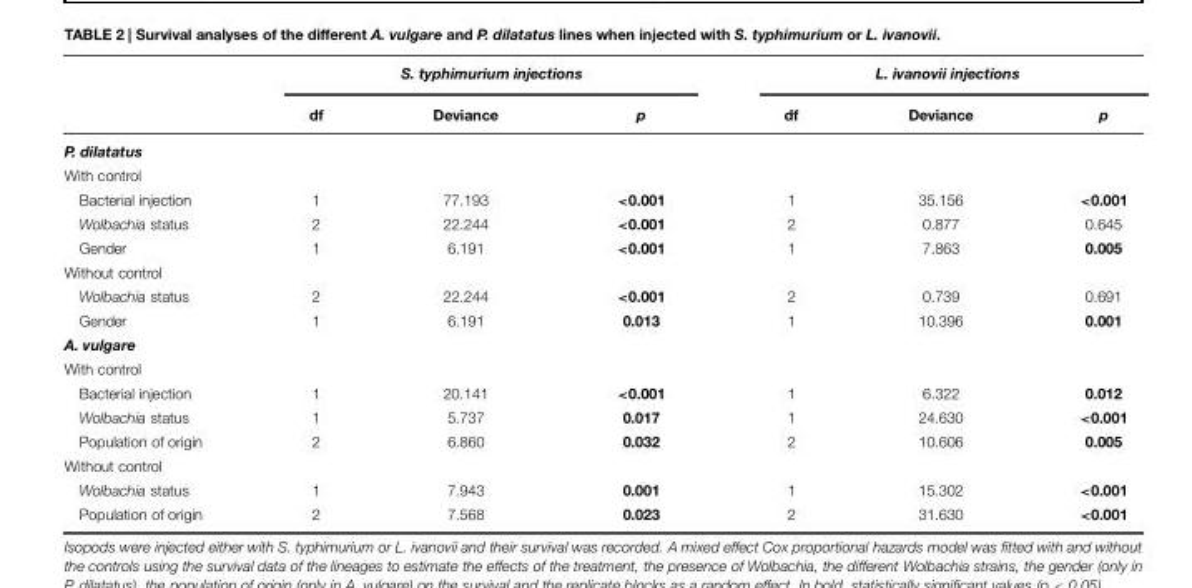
<table><thead><tr><td rowspan="2"></td><td colspan="3">S. typhimurium injections</td><td colspan="3">L. ivanovii injections</td></tr><tr><td>df</td><td>Deviance</td><td>p</td><td>df</td><td>Deviance</td><td>p</td></tr></thead><tbody><tr><td colspan="7">P. dilatatus</td></tr><tr><td colspan="7">With control</td></tr><tr><td>Bacterial injection</td><td>1</td><td>77.193</td><td>&lt;0.001</td><td>1</td><td>35.156</td><td>&lt;0.001</td></tr><tr><td>Wolbachia status</td><td>2</td><td>22.244</td><td>&lt;0.001</td><td>2</td><td>0.877</td><td>0.645</td></tr><tr><td>Gender</td><td>1</td><td>6.191</td><td>&lt;0.001</td><td>1</td><td>7.863</td><td>0.005</td></tr><tr><td colspan="7">Without control</td></tr><tr><td>Wolbachia status</td><td>2</td><td>22.244</td><td>&lt;0.001</td><td>2</td><td>0.739</td><td>0.691</td></tr><tr><td>Gender</td><td>1</td><td>6.191</td><td>0.013</td><td>1</td><td>10.396</td><td>0.001</td></tr><tr><td colspan="7">A. vulgare</td></tr><tr><td colspan="7">With control</td></tr><tr><td>Bacterial injection</td><td>1</td><td>20.141</td><td>&lt;0.001</td><td>1</td><td>6.322</td><td>0.012</td></tr><tr><td>Wolbachia status</td><td>1</td><td>5.737</td><td>0.017</td><td>1</td><td>24.630</td><td>&lt;0.001</td></tr><tr><td>Population of origin</td><td>2</td><td>6.860</td><td>0.032</td><td>2</td><td>10.606</td><td>0.005</td></tr><tr><td colspan="7">Without control</td></tr><tr><td>Wolbachia status</td><td>1</td><td>7.943</td><td>0.001</td><td>1</td><td>15.302</td><td>&lt;0.001</td></tr><tr><td>Population of origin</td><td>2</td><td>7.568</td><td>0.023</td><td>2</td><td>31.630</td><td>&lt;0.001</td></tr></tbody></table>